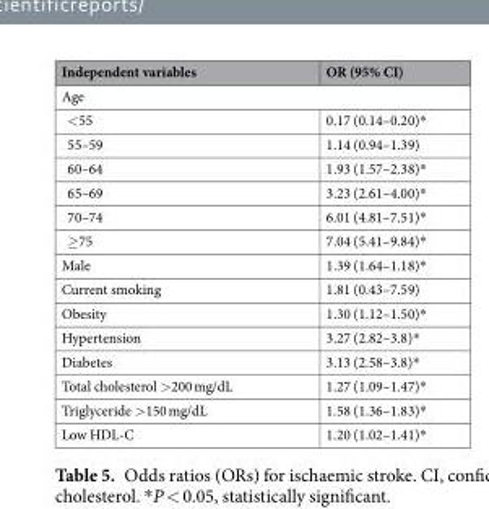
<table><thead><tr><td>Independent variables</td><td>OR (95% CI)</td></tr></thead><tbody><tr><td colspan="2">Age</td></tr><tr><td>&lt;55</td><td>0.17 (0.14–0.20)*</td></tr><tr><td>55–59</td><td>1.14 (0.94–1.39)</td></tr><tr><td>60–64</td><td>1.93 (1.57–2.38)*</td></tr><tr><td>65–69</td><td>3.23 (2.61–4.00)*</td></tr><tr><td>70–74</td><td>6.01 (4.81–7.51)*</td></tr><tr><td>≥75</td><td>7.04 (5.41–9.84)*</td></tr><tr><td>Male</td><td>1.39 (1.64–1.18)*</td></tr><tr><td>Current smoking</td><td>1.81 (0.43–7.59)</td></tr><tr><td>Obesity</td><td>1.30 (1.12–1.50)*</td></tr><tr><td>Hypertension</td><td>3.27 (2.82–3.8)*</td></tr><tr><td>Diabetes</td><td>3.13 (2.58–3.8)*</td></tr><tr><td>Total cholesterol &gt;200 mg/dL</td><td>1.27 (1.09–1.47)*</td></tr><tr><td>Triglyceride &gt;150 mg/dL</td><td>1.58 (1.36–1.83)*</td></tr><tr><td>Low HDL-C</td><td>1.20 (1.02–1.41)*</td></tr></tbody></table>